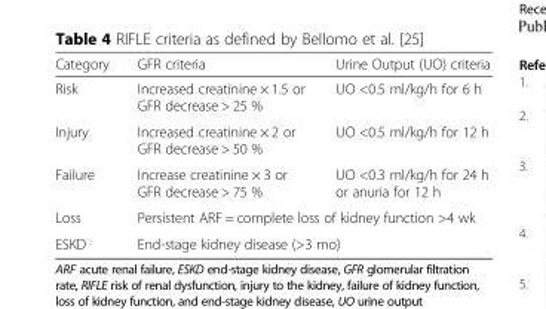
<table><thead><tr><td>Category</td><td>GFR criteria</td><td>Urine Output (UO) criteria</td></tr></thead><tbody><tr><td>Risk</td><td>Increased creatinine × 1.5 or GFR decrease &gt; 25 %</td><td>UO &lt;0.5 ml/kg/h for 6 h</td></tr><tr><td>Injury</td><td>Increased creatinine × 2 or GFR decrease &gt; 50 %</td><td>UO &lt;0.5 ml/kg/h for 12 h</td></tr><tr><td>Failure</td><td>Increase creatinine × 3 or GFR decrease &gt; 75 %</td><td>UO &lt;0.3 ml/kg/h for 24 h or anuria for 12 h</td></tr><tr><td>Loss</td><td colspan="2">Persistent ARF = complete loss of kidney function &gt;4 wk</td></tr><tr><td>ESKD</td><td colspan="2">End-stage kidney disease (&gt;3 mo)</td></tr></tbody></table>